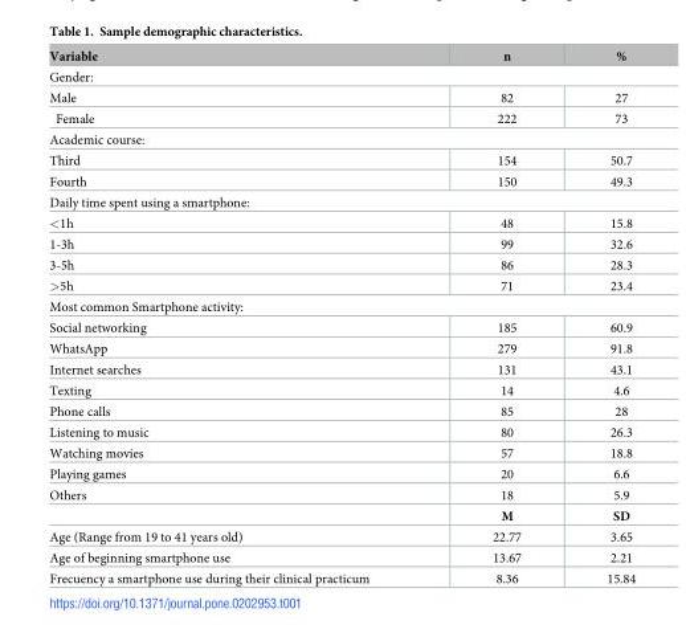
<table><thead><tr><td>Variable</td><td>n</td><td>%</td></tr></thead><tbody><tr><td colspan="3">Gender:</td></tr><tr><td>Male</td><td>82</td><td>27</td></tr><tr><td>Female</td><td>222</td><td>73</td></tr><tr><td colspan="3">Academic course:</td></tr><tr><td>Third</td><td>154</td><td>50.7</td></tr><tr><td>Fourth</td><td>150</td><td>49.3</td></tr><tr><td colspan="3">Daily time spent using a smartphone:</td></tr><tr><td>&lt;1h</td><td>48</td><td>15.8</td></tr><tr><td>1-3h</td><td>99</td><td>32.6</td></tr><tr><td>3-5h</td><td>86</td><td>28.3</td></tr><tr><td>&gt;5h</td><td>71</td><td>23.4</td></tr><tr><td colspan="3">Most common Smartphone activity:</td></tr><tr><td>Social networking</td><td>185</td><td>60.9</td></tr><tr><td>WhatsApp</td><td>279</td><td>91.8</td></tr><tr><td>Internet searches</td><td>131</td><td>43.1</td></tr><tr><td>Texting</td><td>14</td><td>4.6</td></tr><tr><td>Phone calls</td><td>85</td><td>28</td></tr><tr><td>Listening to music</td><td>80</td><td>26.3</td></tr><tr><td>Watching movies</td><td>57</td><td>18.8</td></tr><tr><td>Playing games</td><td>20</td><td>6.6</td></tr><tr><td rowspan="2">Others</td><td>18</td><td>5.9</td></tr><tr><td>M</td><td>SD</td></tr><tr><td>Age (Range from 19 to 41 years old)</td><td>22.77</td><td>3.65</td></tr><tr><td>Age of beginning smartphone use</td><td>13.67</td><td>2.21</td></tr><tr><td>Frecuency a smartphone use during their clinical practicum</td><td>8.36</td><td>15.84</td></tr></tbody></table>